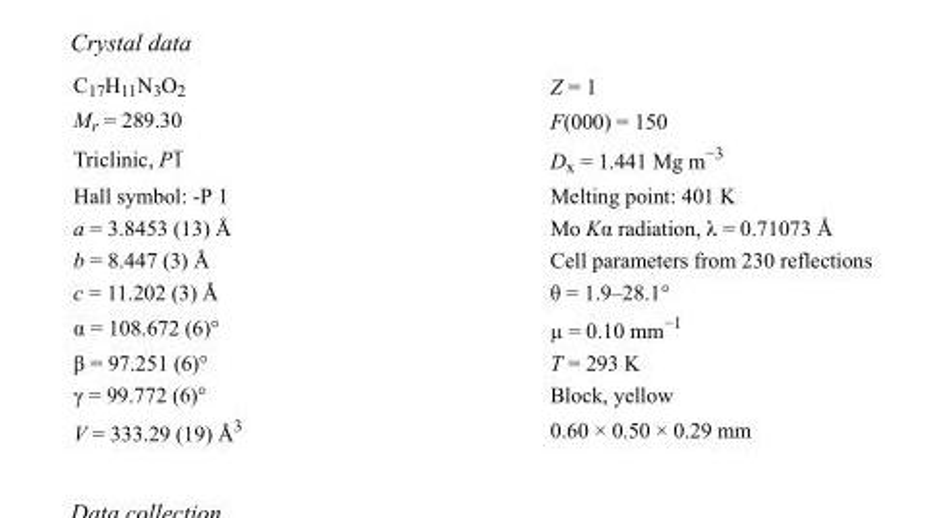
<table><tbody><tr><td>C<sub>17</sub>H<sub>11</sub>N<sub>3</sub>O<sub>2</sub></td><td>Z = 1</td></tr><tr><td>M<sub>r</sub> = 289.30</td><td>F(000) = 150</td></tr><tr><td>Triclinic, P1</td><td>D<sub>x</sub> = 1.441 Mg m<sup>−3</sup></td></tr><tr><td>Hall symbol: -P 1</td><td>Melting point: 401 K</td></tr><tr><td>a = 3.8453 (13) Å</td><td>Mo Kα radiation, λ = 0.71073 Å</td></tr><tr><td>b = 8.447 (3) Å</td><td>Cell parameters from 230 reflections</td></tr><tr><td>c = 11.202 (3) Å</td><td>θ = 1.9–28.1°</td></tr><tr><td>α = 108.672 (6)°</td><td>µ = 0.10 mm<sup>−1</sup></td></tr><tr><td>β = 97.251 (6)°</td><td>T = 293 K</td></tr><tr><td>γ = 99.772 (6)°</td><td>Block, yellow</td></tr><tr><td>V = 333.29 (19) Å<sup>3</sup></td><td>0.60 × 0.50 × 0.29 mm</td></tr></tbody></table>